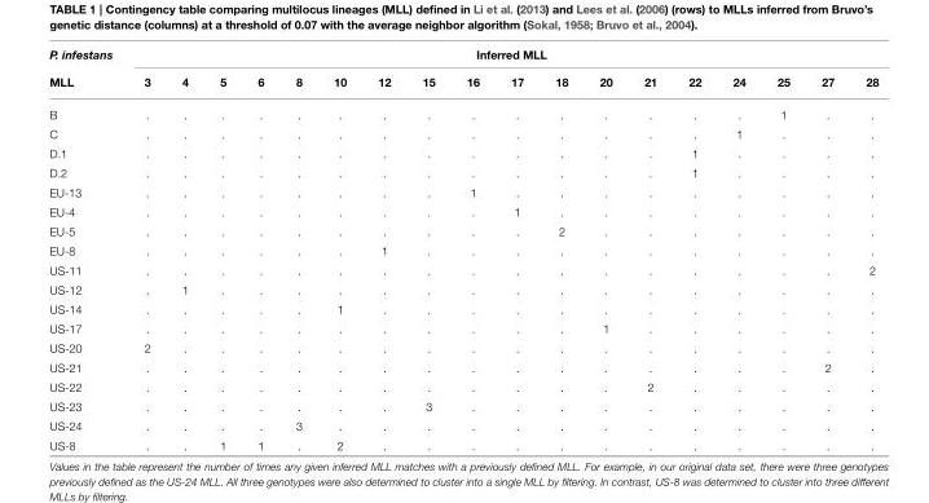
<table><thead><tr><td rowspan="2">P. infestans MLL</td><td colspan="18">Inferred MLL</td></tr><tr><td>3</td><td>4</td><td>5</td><td>6</td><td>8</td><td>10</td><td>12</td><td>15</td><td>16</td><td>17</td><td>18</td><td>20</td><td>21</td><td>22</td><td>24</td><td>25</td><td>27</td><td>28</td></tr></thead><tbody><tr><td>B</td><td>.</td><td>.</td><td>.</td><td>.</td><td>.</td><td>.</td><td>.</td><td>.</td><td>.</td><td>.</td><td>.</td><td>.</td><td>.</td><td>.</td><td>.</td><td>1</td><td>.</td><td>.</td></tr><tr><td>C</td><td>.</td><td>.</td><td>.</td><td>.</td><td>.</td><td>.</td><td>.</td><td>.</td><td>.</td><td>.</td><td>.</td><td>.</td><td>.</td><td>.</td><td>1</td><td>.</td><td>.</td><td>.</td></tr><tr><td>D.1</td><td>.</td><td>.</td><td>.</td><td>.</td><td>.</td><td>.</td><td>.</td><td>.</td><td>.</td><td>.</td><td>.</td><td>.</td><td>.</td><td>1</td><td>.</td><td>.</td><td>.</td><td>.</td></tr><tr><td>D.2</td><td>.</td><td>.</td><td>.</td><td>.</td><td>.</td><td>.</td><td>.</td><td>.</td><td>.</td><td>.</td><td>.</td><td>.</td><td>.</td><td>1</td><td>.</td><td>.</td><td>.</td><td>.</td></tr><tr><td>EU-13</td><td>.</td><td>.</td><td>.</td><td>.</td><td>.</td><td>.</td><td>.</td><td>.</td><td>1</td><td>.</td><td>.</td><td>.</td><td>.</td><td>.</td><td>.</td><td>.</td><td>.</td><td>.</td></tr><tr><td>EU-4</td><td>.</td><td>.</td><td>.</td><td>.</td><td>.</td><td>.</td><td>.</td><td>.</td><td>.</td><td>1</td><td>.</td><td>.</td><td>.</td><td>.</td><td>.</td><td>.</td><td>.</td><td>.</td></tr><tr><td>EU-5</td><td>.</td><td>.</td><td>.</td><td>.</td><td>.</td><td>.</td><td>.</td><td>.</td><td>.</td><td>.</td><td>2</td><td>.</td><td>.</td><td>.</td><td>.</td><td>.</td><td>.</td><td>.</td></tr><tr><td>EU-8</td><td>.</td><td>.</td><td>.</td><td>.</td><td>.</td><td>.</td><td>1</td><td>.</td><td>.</td><td>.</td><td>.</td><td>.</td><td>.</td><td>.</td><td>.</td><td>.</td><td>.</td><td>.</td></tr><tr><td>US-11</td><td>.</td><td>.</td><td>.</td><td>.</td><td>.</td><td>.</td><td>.</td><td>.</td><td>.</td><td>.</td><td>.</td><td>.</td><td>.</td><td>.</td><td>.</td><td>.</td><td>.</td><td>2</td></tr><tr><td>US-12</td><td>.</td><td>1</td><td>.</td><td>.</td><td>.</td><td>.</td><td>.</td><td>.</td><td>.</td><td>.</td><td>.</td><td>.</td><td>.</td><td>.</td><td>.</td><td>.</td><td>.</td><td>.</td></tr><tr><td>US-14</td><td>.</td><td>.</td><td>.</td><td>.</td><td>.</td><td>1</td><td>.</td><td>.</td><td>.</td><td>.</td><td>.</td><td>.</td><td>.</td><td>.</td><td>.</td><td>.</td><td>.</td><td>.</td></tr><tr><td>US-17</td><td>.</td><td>.</td><td>.</td><td>.</td><td>.</td><td>.</td><td>.</td><td>.</td><td>.</td><td>.</td><td>.</td><td>1</td><td>.</td><td>.</td><td>.</td><td>.</td><td>.</td><td>.</td></tr><tr><td>US-20</td><td>2</td><td>.</td><td>.</td><td>.</td><td>.</td><td>.</td><td>.</td><td>.</td><td>.</td><td>.</td><td>.</td><td>.</td><td>.</td><td>.</td><td>.</td><td>.</td><td>.</td><td>.</td></tr><tr><td>US-21</td><td>.</td><td>.</td><td>.</td><td>.</td><td>.</td><td>.</td><td>.</td><td>.</td><td>.</td><td>.</td><td>.</td><td>.</td><td>.</td><td>.</td><td>.</td><td>.</td><td>2</td><td>.</td></tr><tr><td>US-22</td><td>.</td><td>.</td><td>.</td><td>.</td><td>.</td><td>.</td><td>.</td><td>.</td><td>.</td><td>.</td><td>.</td><td>.</td><td>2</td><td>.</td><td>.</td><td>.</td><td>.</td><td>.</td></tr><tr><td>US-23</td><td>.</td><td>.</td><td>.</td><td>.</td><td>.</td><td>.</td><td>.</td><td>3</td><td>.</td><td>.</td><td>.</td><td>.</td><td>.</td><td>.</td><td>.</td><td>.</td><td>.</td><td>.</td></tr><tr><td>US-24</td><td>.</td><td>.</td><td>.</td><td>.</td><td>3</td><td>.</td><td>.</td><td>.</td><td>.</td><td>.</td><td>.</td><td>.</td><td>.</td><td>.</td><td>.</td><td>.</td><td>.</td><td>.</td></tr><tr><td>US-8</td><td>.</td><td>.</td><td>1</td><td>1</td><td>.</td><td>2</td><td>.</td><td>.</td><td>.</td><td>.</td><td>.</td><td>.</td><td>.</td><td>.</td><td>.</td><td>.</td><td>.</td><td>.</td></tr></tbody></table>